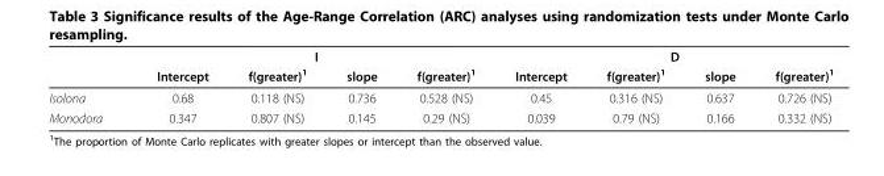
<table><thead><tr><td rowspan="2"></td><td colspan="4">I</td><td colspan="4">D</td></tr><tr><td>Intercept</td><td>f(greater)<sup>1</sup></td><td>slope</td><td>f(greater)<sup>1</sup></td><td>Intercept</td><td>f(greater)<sup>1</sup></td><td>slope</td><td>f(greater)<sup>1</sup></td></tr></thead><tbody><tr><td>Isolona</td><td>0.68</td><td>0.118 (NS)</td><td>0.736</td><td>0.528 (NS)</td><td>0.45</td><td>0.316 (NS)</td><td>0.637</td><td>0.726 (NS)</td></tr><tr><td>Monodora</td><td>0.347</td><td>0.807 (NS)</td><td>0.145</td><td>0.29 (NS)</td><td>0.039</td><td>0.79 (NS)</td><td>0.166</td><td>0.332 (NS)</td></tr></tbody></table>